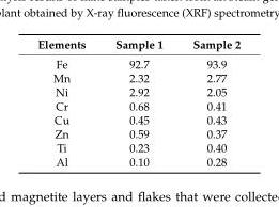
<table><thead><tr><td>Elements</td><td>Sample 1</td><td>Sample 2</td></tr></thead><tbody><tr><td>Fe</td><td>92.7</td><td>93.9</td></tr><tr><td>Mn</td><td>2.32</td><td>2.77</td></tr><tr><td>Ni</td><td>2.92</td><td>2.05</td></tr><tr><td>Cr</td><td>0.68</td><td>0.41</td></tr><tr><td>Cu</td><td>0.45</td><td>0.43</td></tr><tr><td>Zn</td><td>0.59</td><td>0.37</td></tr><tr><td>Ti</td><td>0.23</td><td>0.40</td></tr><tr><td>Al</td><td>0.10</td><td>0.28</td></tr></tbody></table>